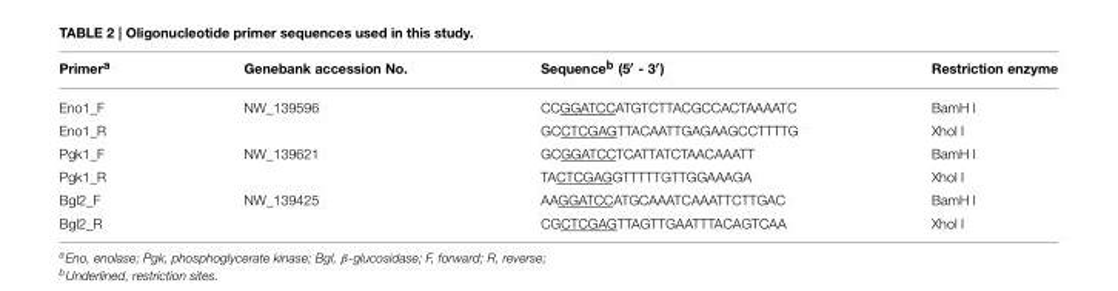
<table><thead><tr><td>Primer<sup>a</sup></td><td>Genebank accession No.</td><td>Sequence<sup>b</sup> (5<sup>′</sup> - 3<sup>′</sup>)</td><td>Restriction enzyme</td></tr></thead><tbody><tr><td>Eno1_F</td><td>NW_139596</td><td>CCGGATCCATGTCTTACGCCACTAAAATC</td><td>BamH I</td></tr><tr><td>Eno1_R</td><td></td><td>GCCTCGAGTTACAATTGAGAAGCCTTTTG</td><td>Xhol I</td></tr><tr><td>Pgk1_F</td><td>NW_139621</td><td>GCGGATCCTCATTATCTAACAAATT</td><td>BamH I</td></tr><tr><td>Pgk1_R</td><td></td><td>TACTCGAGGTTTTTGTTGGAAAGA</td><td>Xhol I</td></tr><tr><td>Bgl2_F</td><td>NW_139425</td><td>AAGGATCCATGCAAATCAAATTCTTGAC</td><td>BamH I</td></tr><tr><td>Bgl2_R</td><td></td><td>CGCTCGAGTTAGTTGAATTTACAGTCAA</td><td>Xhol I</td></tr></tbody></table>